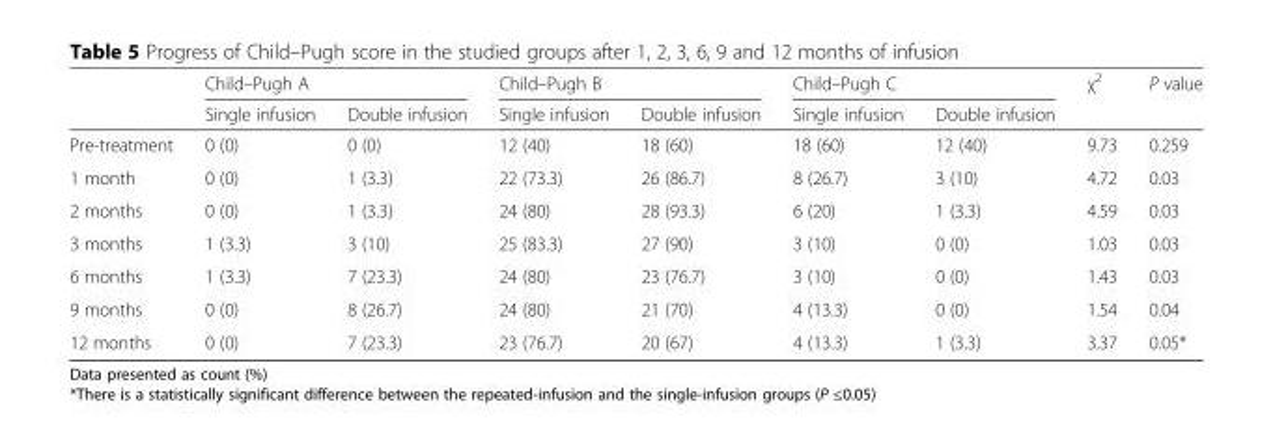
<table><thead><tr><td rowspan="2"></td><td colspan="2">Child–Pugh A</td><td colspan="2">Child–Pugh B</td><td colspan="2">Child–Pugh C</td><td rowspan="2">χ<sup>2</sup></td><td rowspan="2">P value</td></tr><tr><td>Single infusion</td><td>Double infusion</td><td>Single infusion</td><td>Double infusion</td><td>Single infusion</td><td>Double infusion</td></tr></thead><tbody><tr><td>Pre-treatment</td><td>0 (0)</td><td>0 (0)</td><td>12 (40)</td><td>18 (60)</td><td>18 (60)</td><td>12 (40)</td><td>9.73</td><td>0.259</td></tr><tr><td>1 month</td><td>0 (0)</td><td>1 (3.3)</td><td>22 (73.3)</td><td>26 (86.7)</td><td>8 (26.7)</td><td>3 (10)</td><td>4.72</td><td>0.03</td></tr><tr><td>2 months</td><td>0 (0)</td><td>1 (3.3)</td><td>24 (80)</td><td>28 (93.3)</td><td>6 (20)</td><td>1 (3.3)</td><td>4.59</td><td>0.03</td></tr><tr><td>3 months</td><td>1 (3.3)</td><td>3 (10)</td><td>25 (83.3)</td><td>27 (90)</td><td>3 (10)</td><td>0 (0)</td><td>1.03</td><td>0.03</td></tr><tr><td>6 months</td><td>1 (3.3)</td><td>7 (23.3)</td><td>24 (80)</td><td>23 (76.7)</td><td>3 (10)</td><td>0 (0)</td><td>1.43</td><td>0.03</td></tr><tr><td>9 months</td><td>0 (0)</td><td>8 (26.7)</td><td>24 (80)</td><td>21 (70)</td><td>4 (13.3)</td><td>0 (0)</td><td>1.54</td><td>0.04</td></tr><tr><td>12 months</td><td>0 (0)</td><td>7 (23.3)</td><td>23 (76.7)</td><td>20 (67)</td><td>4 (13.3)</td><td>1 (3.3)</td><td>3.37</td><td>0.05*</td></tr></tbody></table>